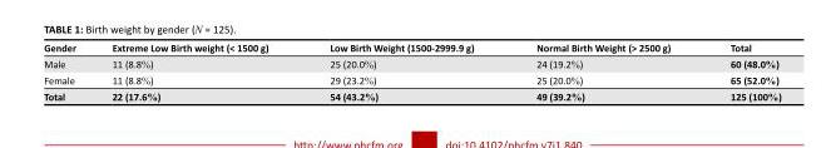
<table><thead><tr><td>Gender</td><td>Extreme Low Birth weight (&lt; 1500 g)</td><td>Low Birth Weight (1500-2999.9 g)</td><td>Normal Birth Weight (&gt; 2500 g)</td><td>Total</td></tr></thead><tbody><tr><td>Male</td><td>11 (8.8%)</td><td>25 (20.0%)</td><td>24 (19.2%)</td><td>60 (48.0%)</td></tr><tr><td>Female</td><td>11 (8.8%)</td><td>29 (23.2%)</td><td>25 (20.0%)</td><td>65 (52.0%)</td></tr><tr><td>Total</td><td>22 (17.6%)</td><td>54 (43.2%)</td><td>49 (39.2%)</td><td>125 (100%)</td></tr></tbody></table>